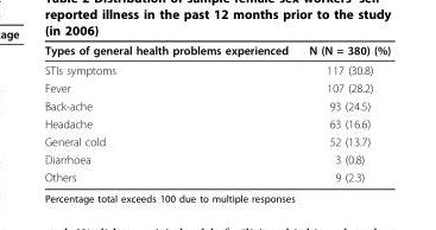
<table><thead><tr><td>Types of general health problems experienced</td><td>N (N = 380) (%)</td></tr></thead><tbody><tr><td>STIs symptoms</td><td>117 (30.8)</td></tr><tr><td>Fever</td><td>107 (28.2)</td></tr><tr><td>Back-ache</td><td>93 (24.5)</td></tr><tr><td>Headache</td><td>63 (16.6)</td></tr><tr><td>General cold</td><td>52 (13.7)</td></tr><tr><td>Diarrhoea</td><td>3 (0.8)</td></tr><tr><td>Others</td><td>9 (2.3)</td></tr></tbody></table>